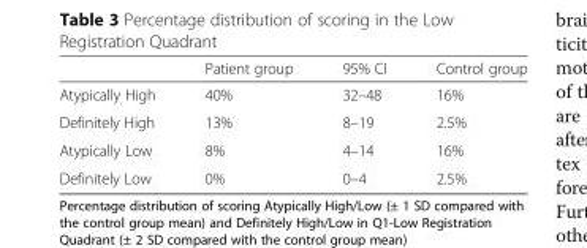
<table><thead><tr><td></td><td>Patient group</td><td>95% CI</td><td>Control group</td></tr></thead><tbody><tr><td>Atypically High</td><td>40%</td><td>32–48</td><td>16%</td></tr><tr><td>Definitely High</td><td>13%</td><td>8–19</td><td>2.5%</td></tr><tr><td>Atypically Low</td><td>8%</td><td>4–14</td><td>16%</td></tr><tr><td>Definitely Low</td><td>0%</td><td>0–4</td><td>2.5%</td></tr></tbody></table>